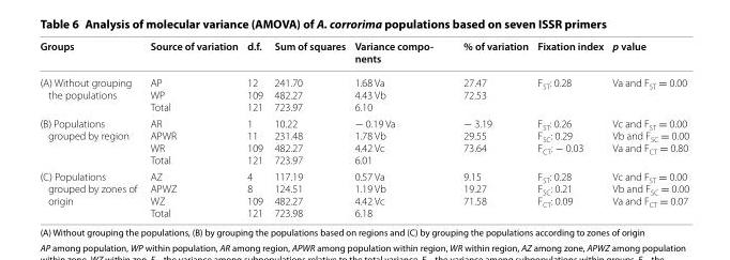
<table><thead><tr><td>Groups</td><td>Source of variation</td><td>d.f.</td><td>Sum of squares</td><td>Variance compo- nents</td><td>% of variation</td><td>Fixation index</td><td>p value</td></tr></thead><tbody><tr><td>(A) Without grouping the populations</td><td>AP WP Total</td><td>12 109 121</td><td>241.70 482.27 723.97</td><td>1.68 Va 4.43 Vb 6.10</td><td>27.47 72.53</td><td>F<sub>ST</sub>: 0.28</td><td>Va and F<sub>ST</sub> = 0.00</td></tr><tr><td>(B) Populations grouped by region</td><td>AR APWR WR Total</td><td>1 11 109 121</td><td>10.22 231.48 482.27 723.97</td><td>− 0.19 Va 1.78 Vb 4.42 Vc 6.01</td><td>− 3.19 29.55 73.64</td><td>F<sub>ST</sub>: 0.26 F<sub>SC</sub>: 0.29 F<sub>CT</sub>: − 0.03</td><td>Vc and F<sub>ST</sub> = 0.00 Vb and F<sub>SC</sub> = 0.00 Va and F<sub>CT</sub> = 0.80</td></tr><tr><td>(C) Populations grouped by zones of origin</td><td>AZ APWZ WZ Total</td><td>4 8 109 121</td><td>117.19 124.51 482.27 723.98</td><td>0.57 Va 1.19 Vb 4.42 Vc 6.18</td><td>9.15 19.27 71.58</td><td>F<sub>ST</sub>: 0.28 F<sub>SC</sub>: 0.21 F<sub>CT</sub>: 0.09</td><td>Vc and F<sub>ST</sub> = 0.00 Vb and F<sub>SC</sub> = 0.00 Va and F<sub>CT</sub> = 0.07</td></tr></tbody></table>